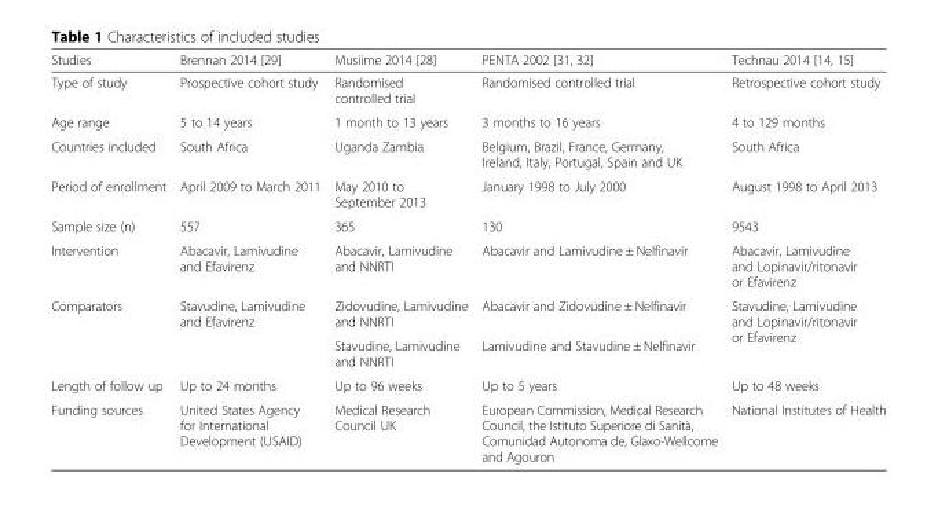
<table><thead><tr><td>Studies</td><td>Brennan 2014 [29]</td><td>Musiime 2014 [28]</td><td>PENTA 2002 [31, 32]</td><td>Technau 2014 [14, 15]</td></tr></thead><tbody><tr><td>Type of study</td><td>Prospective cohort study</td><td>Randomised controlled trial</td><td>Randomised controlled trial</td><td>Retrospective cohort study</td></tr><tr><td>Age range</td><td>5 to 14 years</td><td>1 month to 13 years</td><td>3 months to 16 years</td><td>4 to 129 months</td></tr><tr><td>Countries included</td><td>South Africa</td><td>Uganda Zambia</td><td>Belgium, Brazil, France, Germany, Ireland, Italy, Portugal, Spain and UK</td><td>South Africa</td></tr><tr><td>Period of enrollment</td><td>April 2009 to March 2011</td><td>May 2010 to September 2013</td><td>January 1998 to July 2000</td><td>August 1998 to April 2013</td></tr><tr><td>Sample size (n)</td><td>557</td><td>365</td><td>130</td><td>9543</td></tr><tr><td>Intervention</td><td>Abacavir, Lamivudine and Efavirenz</td><td>Abacavir, Lamivudine and NNRTI</td><td>Abacavir and Lamivudine ± Nelfinavir</td><td>Abacavir, Lamivudine and Lopinavir/ritonavir or Efavirenz</td></tr><tr><td rowspan="2">Comparators</td><td rowspan="2">Stavudine, Lamivudine and Efavirenz</td><td>Zidovudine, Lamivudine and NNRTI</td><td>Abacavir and Zidovudine ± Nelfinavir</td><td rowspan="2">Stavudine, Lamivudine and Lopinavir/ritonavir or Efavirenz</td></tr><tr><td>Stavudine, Lamivudine and NNRTI</td><td>Lamivudine and Stavudine ± Nelfinavir</td></tr><tr><td>Length of follow up</td><td>Up to 24 months</td><td>Up to 96 weeks</td><td>Up to 5 years</td><td>Up to 48 weeks</td></tr><tr><td>Funding sources</td><td>United States Agency for International Development (USAID)</td><td>Medical Research Council UK</td><td>European Commission, Medical Research Council, the Istituto Superiore di Sanità, Comunidad Autonoma de, Glaxo-Wellcome and Agouron</td><td>National Institutes of Health</td></tr></tbody></table>